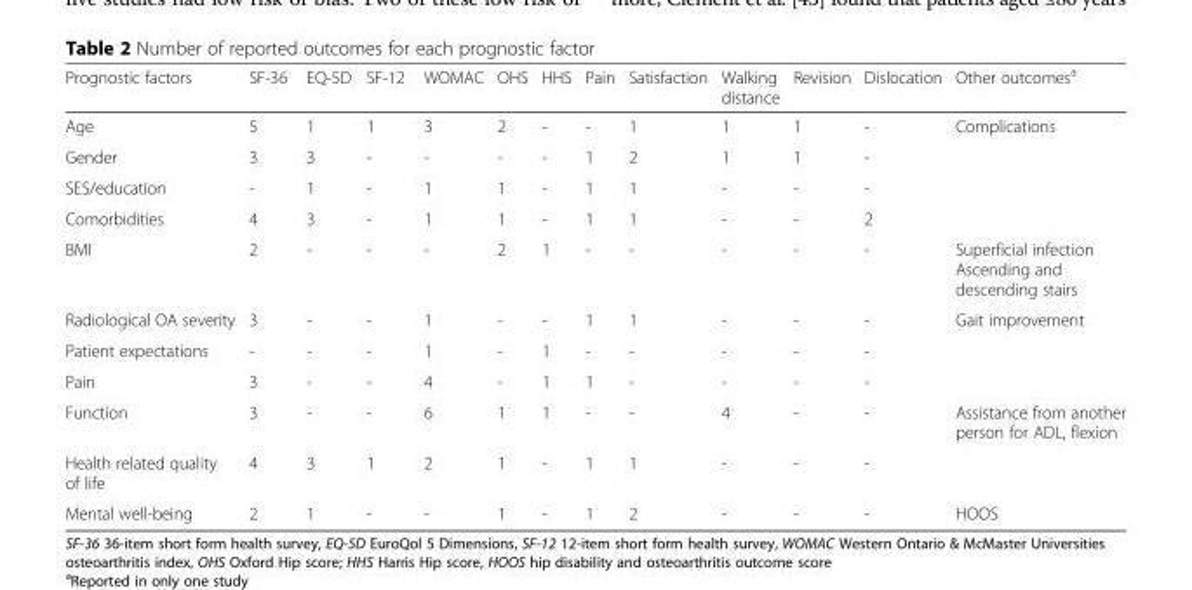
<table><thead><tr><td>Prognostic factors</td><td>SF-36</td><td>EQ-5D</td><td>SF-12</td><td>WOMAC</td><td>OHS</td><td>HHS</td><td>Pain</td><td>Satisfaction</td><td>Walking distance</td><td>Revision</td><td>Dislocation</td><td>Other outcomes<sup>a</sup></td></tr></thead><tbody><tr><td>Age</td><td>5</td><td>1</td><td>1</td><td>3</td><td>2</td><td>-</td><td>-</td><td>1</td><td>1</td><td>1</td><td>-</td><td>Complications</td></tr><tr><td>Gender</td><td>3</td><td>3</td><td>-</td><td>-</td><td>-</td><td>-</td><td>1</td><td>2</td><td>1</td><td>1</td><td>-</td><td></td></tr><tr><td>SES/education</td><td>-</td><td>1</td><td>-</td><td>1</td><td>1</td><td>-</td><td>1</td><td>1</td><td>-</td><td>-</td><td>-</td><td></td></tr><tr><td>Comorbidities</td><td>4</td><td>3</td><td>-</td><td>1</td><td>1</td><td>-</td><td>1</td><td>1</td><td>-</td><td>-</td><td>2</td><td></td></tr><tr><td>BMI</td><td>2</td><td>-</td><td>-</td><td>-</td><td>2</td><td>1</td><td>-</td><td>-</td><td>-</td><td>-</td><td>-</td><td>Superficial infection Ascending and descending stairs</td></tr><tr><td>Radiological OA severity</td><td>3</td><td>-</td><td>-</td><td>1</td><td>-</td><td>-</td><td>1</td><td>1</td><td>-</td><td>-</td><td>-</td><td>Gait improvement</td></tr><tr><td>Patient expectations</td><td>-</td><td>-</td><td>-</td><td>1</td><td>-</td><td>1</td><td>-</td><td>-</td><td>-</td><td>-</td><td>-</td><td></td></tr><tr><td>Pain</td><td>3</td><td>-</td><td>-</td><td>4</td><td>-</td><td>1</td><td>1</td><td>-</td><td>-</td><td>-</td><td>-</td><td></td></tr><tr><td>Function</td><td>3</td><td>-</td><td>-</td><td>6</td><td>1</td><td>1</td><td>-</td><td>-</td><td>4</td><td>-</td><td>-</td><td>Assistance from another person for ADL, flexion</td></tr><tr><td>Health related quality of life</td><td>4</td><td>3</td><td>1</td><td>2</td><td>1</td><td>-</td><td>1</td><td>1</td><td>-</td><td>-</td><td>-</td><td></td></tr><tr><td>Mental well-being</td><td>2</td><td>1</td><td>-</td><td>-</td><td>1</td><td>-</td><td>1</td><td>2</td><td>-</td><td>-</td><td>-</td><td>HOOS</td></tr></tbody></table>